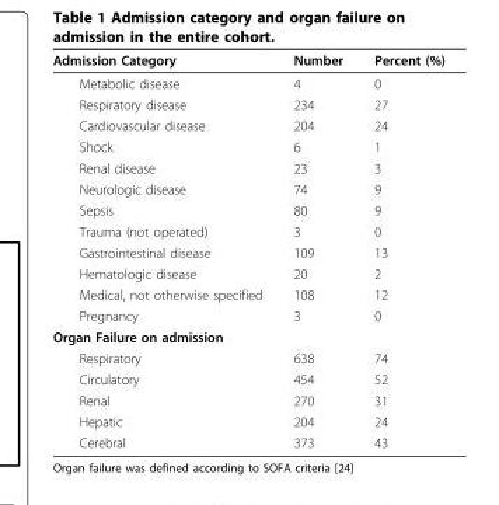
<table><thead><tr><td>Admission Category</td><td>Number</td><td>Percent (%)</td></tr></thead><tbody><tr><td>Metabolic disease</td><td>4</td><td>0</td></tr><tr><td>Respiratory disease</td><td>234</td><td>27</td></tr><tr><td>Cardiovascular disease</td><td>204</td><td>24</td></tr><tr><td>Shock</td><td>6</td><td>1</td></tr><tr><td>Renal disease</td><td>23</td><td>3</td></tr><tr><td>Neurologic disease</td><td>74</td><td>9</td></tr><tr><td>Sepsis</td><td>80</td><td>9</td></tr><tr><td>Trauma (not operated)</td><td>3</td><td>0</td></tr><tr><td>Gastrointestinal disease</td><td>109</td><td>13</td></tr><tr><td>Hematologic disease</td><td>20</td><td>2</td></tr><tr><td>Medical, not otherwise specified</td><td>108</td><td>12</td></tr><tr><td>Pregnancy</td><td>3</td><td>0</td></tr><tr><td colspan="3">Organ Failure on admission</td></tr><tr><td>Respiratory</td><td>638</td><td>74</td></tr><tr><td>Circulatory</td><td>454</td><td>52</td></tr><tr><td>Renal</td><td>270</td><td>31</td></tr><tr><td>Hepatic</td><td>204</td><td>24</td></tr><tr><td>Cerebral</td><td>373</td><td>43</td></tr></tbody></table>